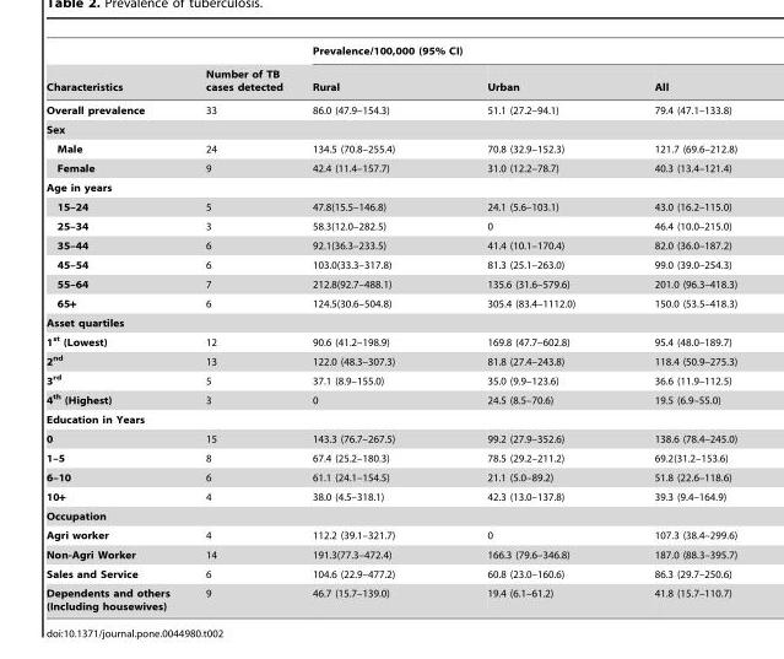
<table><thead><tr><td rowspan="2">Characteristics</td><td rowspan="2">Number of TB cases detected</td><td colspan="3">Prevalence/100,000 (95% CI)</td></tr><tr><td>Rural</td><td>Urban</td><td>All</td></tr></thead><tbody><tr><td>Overall prevalence</td><td>33</td><td>86.0 (47.9–154.3)</td><td>51.1 (27.2–94.1)</td><td>79.4 (47.1–133.8)</td></tr><tr><td colspan="5">Sex</td></tr><tr><td>Male</td><td>24</td><td>134.5 (70.8–255.4)</td><td>70.8 (32.9–152.3)</td><td>121.7 (69.6–212.8)</td></tr><tr><td>Female</td><td>9</td><td>42.4 (11.4–157.7)</td><td>31.0 (12.2–78.7)</td><td>40.3 (13.4–121.4)</td></tr><tr><td colspan="5">Age in years</td></tr><tr><td>15–24</td><td>5</td><td>47.8(15.5–146.8)</td><td>24.1 (5.6–103.1)</td><td>43.0 (16.2–115.0)</td></tr><tr><td>25–34</td><td>3</td><td>58.3(12.0–282.5)</td><td>0</td><td>46.4 (10.0–215.0)</td></tr><tr><td>35–44</td><td>6</td><td>92.1(36.3–233.5)</td><td>41.4 (10.1–170.4)</td><td>82.0 (36.0–187.2)</td></tr><tr><td>45–54</td><td>6</td><td>103.0(33.3–317.8)</td><td>81.3 (25.1–263.0)</td><td>99.0 (39.0–254.3)</td></tr><tr><td>55–64</td><td>7</td><td>212.8(92.7–488.1)</td><td>135.6 (31.6–579.6)</td><td>201.0 (96.3–418.3)</td></tr><tr><td>65+</td><td>6</td><td>124.5(30.6–504.8)</td><td>305.4 (83.4–1112.0)</td><td>150.0 (53.5–418.3)</td></tr><tr><td colspan="5">Asset quartiles</td></tr><tr><td>1<sup>st</sup> (Lowest)</td><td>12</td><td>90.6 (41.2–198.9)</td><td>169.8 (47.7–602.8)</td><td>95.4 (48.0–189.7)</td></tr><tr><td>2<sup>nd</sup></td><td>13</td><td>122.0 (48.3–307.3)</td><td>81.8 (27.4–243.8)</td><td>118.4 (50.9–275.3)</td></tr><tr><td>3<sup>rd</sup></td><td>5</td><td>37.1 (8.9–155.0)</td><td>35.0 (9.9–123.6)</td><td>36.6 (11.9–112.5)</td></tr><tr><td>4<sup>th</sup> (Highest)</td><td>3</td><td>0</td><td>24.5 (8.5–70.6)</td><td>19.5 (6.9–55.0)</td></tr><tr><td colspan="5">Education in Years</td></tr><tr><td>0</td><td>15</td><td>143.3 (76.7–267.5)</td><td>99.2 (27.9–352.6)</td><td>138.6 (78.4–245.0)</td></tr><tr><td>1–5</td><td>8</td><td>67.4 (25.2–180.3)</td><td>78.5 (29.2–211.2)</td><td>69.2(31.2–153.6)</td></tr><tr><td>6–10</td><td>6</td><td>61.1 (24.1–154.5)</td><td>21.1 (5.0–89.2)</td><td>51.8 (22.6–118.6)</td></tr><tr><td>10+</td><td>4</td><td>38.0 (4.5–318.1)</td><td>42.3 (13.0–137.8)</td><td>39.3 (9.4–164.9)</td></tr><tr><td colspan="5">Occupation</td></tr><tr><td>Agri worker</td><td>4</td><td>112.2 (39.1–321.7)</td><td>0</td><td>107.3 (38.4–299.6)</td></tr><tr><td>Non-Agri Worker</td><td>14</td><td>191.3(77.3–472.4)</td><td>166.3 (79.6–346.8)</td><td>187.0 (88.3–395.7)</td></tr><tr><td>Sales and Service</td><td>6</td><td>104.6 (22.9–477.2)</td><td>60.8 (23.0–160.6)</td><td>86.3 (29.7–250.6)</td></tr><tr><td>Dependents and others (Including housewives)</td><td>9</td><td>46.7 (15.7–139.0)</td><td>19.4 (6.1–61.2)</td><td>41.8 (15.7–110.7)</td></tr></tbody></table>